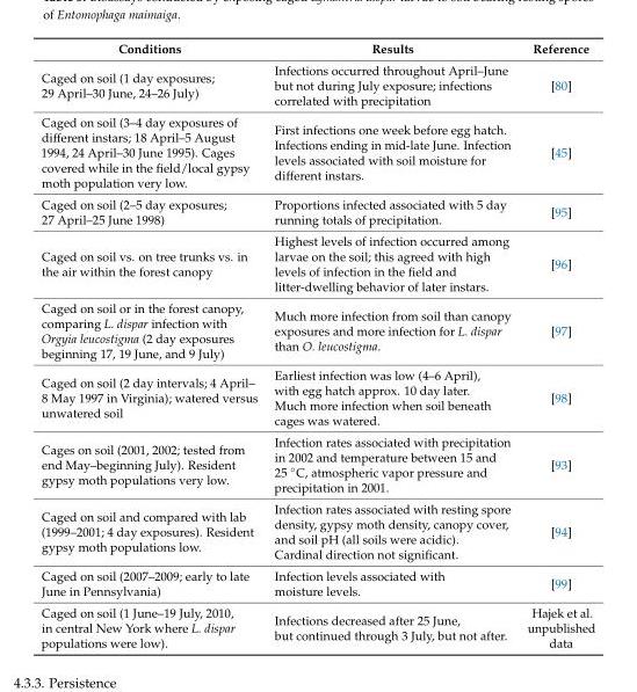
<table><thead><tr><td>Conditions</td><td>Results</td><td>Reference</td></tr></thead><tbody><tr><td>Caged on soil (1 day exposures; 29 April–30 June, 24–26 July)</td><td>Infections occurred throughout April–June but not during July exposure; infections correlated with precipitation</td><td>[80]</td></tr><tr><td>Caged on soil (3–4 day exposures of different instars; 18 April–5 August 1994, 24 April–30 June 1995). Cages covered while in the field/local gypsy moth population very low.</td><td>First infections one week before egg hatch. Infections ending in mid-late June. Infection levels associated with soil moisture for different instars.</td><td>[45]</td></tr><tr><td>Caged on soil (2–5 day exposures; 27 April–25 June 1998)</td><td>Proportions infected associated with 5 day running totals of precipitation.</td><td>[95]</td></tr><tr><td>Caged on soil vs. on tree trunks vs. in the air within the forest canopy</td><td>Highest levels of infection occurred among larvae on the soil; this agreed with high levels of infection in the field and litter-dwelling behavior of later instars.</td><td>[96]</td></tr><tr><td>Caged on soil or in the forest canopy, comparing L. dispar infection with Orgyia leucostigma (2 day exposures beginning 17, 19 June, and 9 July)</td><td>Much more infection from soil than canopy exposures and more infection for L. dispar than O. leucostigma.</td><td>[97]</td></tr><tr><td>Caged on soil (2 day intervals; 4 April– 8 May 1997 in Virginia); watered versus unwatered soil</td><td>Earliest infection was low (4–6 April), with egg hatch approx. 10 day later. Much more infection when soil beneath cages was watered.</td><td>[98]</td></tr><tr><td>Cages on soil (2001, 2002; tested from end May–beginning July). Resident gypsy moth populations very low.</td><td>Infection rates associated with precipitation in 2002 and temperature between 15 and 25 ◦C, atmospheric vapor pressure and precipitation in 2001.</td><td>[93]</td></tr><tr><td>Caged on soil and compared with lab (1999–2001; 4 day exposures). Resident gypsy moth populations low.</td><td>Infection rates associated with resting spore density, gypsy moth density, canopy cover, and soil pH (all soils were acidic). Cardinal direction not significant.</td><td>[94]</td></tr><tr><td>Caged on soil (2007–2009; early to late June in Pennsylvania)</td><td>Infection levels associated with moisture levels.</td><td>[99]</td></tr><tr><td>Caged on soil (1 June–19 July, 2010, in central New York where L. dispar populations were low).</td><td>Infections decreased after 25 June, but continued through 3 July, but not after.</td><td>Hajek et al. unpublished data</td></tr></tbody></table>